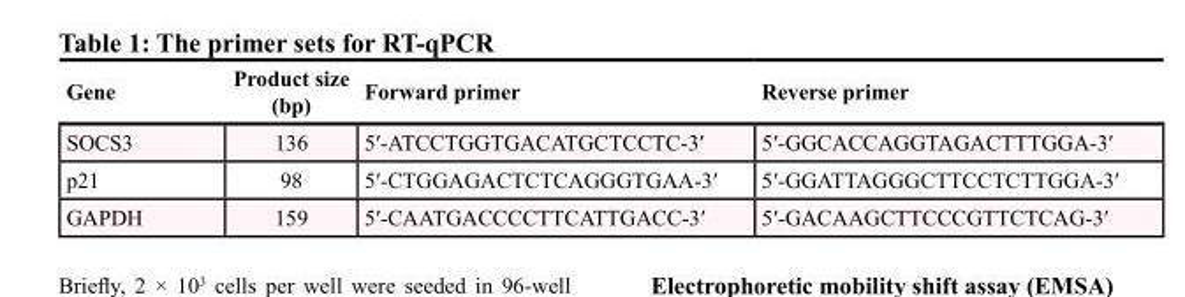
<table><thead><tr><td>Gene</td><td>Product size (bp)</td><td>Forward primer</td><td>Reverse primer</td></tr></thead><tbody><tr><td>SOCS3</td><td>136</td><td>5′-ATCCTGGTGACATGCTCCTC-3′</td><td>5′-GGCACCAGGTAGACTTTGGA-3′</td></tr><tr><td>p21</td><td>98</td><td>5′-CTGGAGACTCTCAGGGTGAA-3′</td><td>5′-GGATTAGGGCTTCCTCTTGGA-3′</td></tr><tr><td>GAPDH</td><td>159</td><td>5′-CAATGACCCCTTCATTGACC-3′</td><td>5′-GACAAGCTTCCCGTTCTCAG-3′</td></tr></tbody></table>